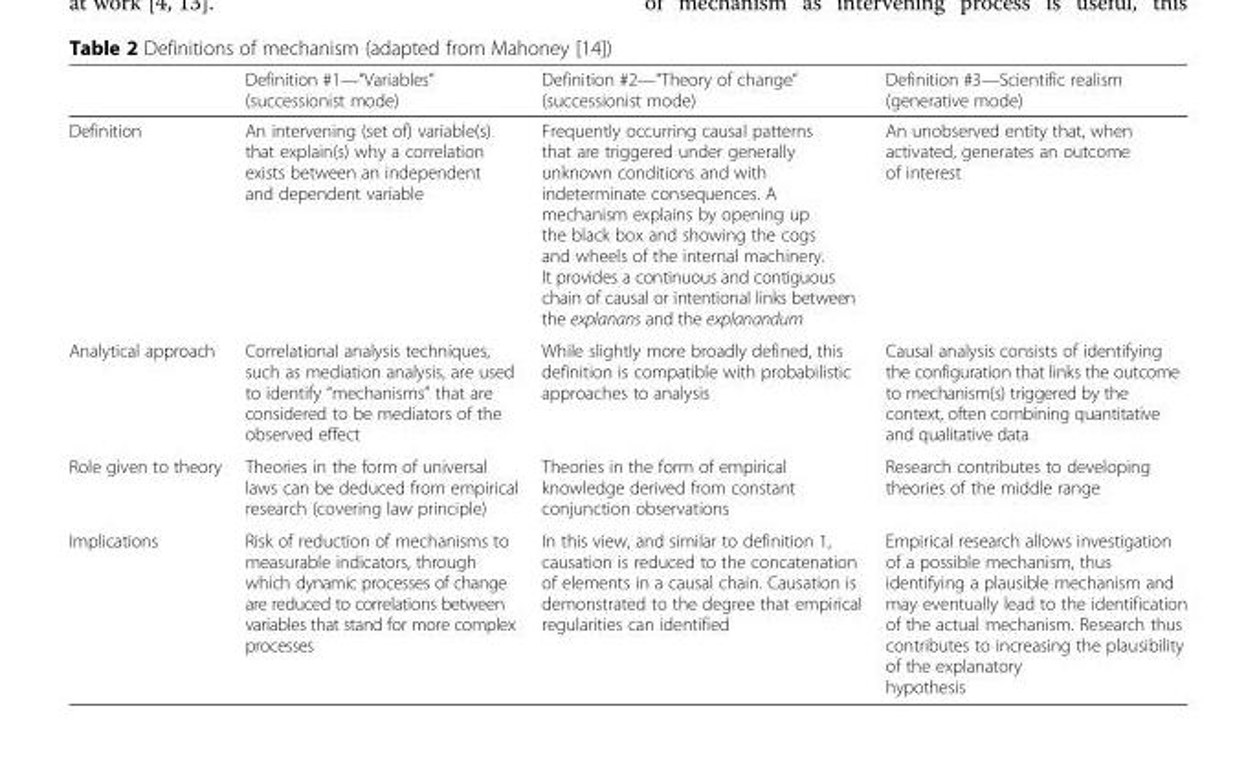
<table><thead><tr><td></td><td>Definition #1—“Variables” (successionist mode)</td><td>Definition #2—“Theory of change” (successionist mode)</td><td>Definition #3—Scientific realism (generative mode)</td></tr></thead><tbody><tr><td>Definition</td><td>An intervening (set of) variable(s) that explain(s) why a correlation exists between an independent and dependent variable</td><td>Frequently occurring causal patterns that are triggered under generally unknown conditions and with indeterminate consequences. A mechanism explains by opening up the black box and showing the cogs and wheels of the internal machinery. It provides a continuous and contiguous chain of causal or intentional links between the explanans and the explanandum</td><td>An unobserved entity that, when activated, generates an outcome of interest</td></tr><tr><td>Analytical approach</td><td>Correlational analysis techniques, such as mediation analysis, are used to identify “mechanisms” that are considered to be mediators of the observed effect</td><td>While slightly more broadly defined, this definition is compatible with probabilistic approaches to analysis</td><td>Causal analysis consists of identifying the configuration that links the outcome to mechanism(s) triggered by the context, often combining quantitative and qualitative data</td></tr><tr><td>Role given to theory</td><td>Theories in the form of universal laws can be deduced from empirical research (covering law principle)</td><td>Theories in the form of empirical knowledge derived from constant conjunction observations</td><td>Research contributes to developing theories of the middle range</td></tr><tr><td>Implications</td><td>Risk of reduction of mechanisms to measurable indicators, through which dynamic processes of change are reduced to correlations between variables that stand for more complex processes</td><td>In this view, and similar to definition 1, causation is reduced to the concatenation of elements in a causal chain. Causation is demonstrated to the degree that empirical regularities can identified</td><td>Empirical research allows investigation of a possible mechanism, thus identifying a plausible mechanism and may eventually lead to the identification of the actual mechanism. Research thus contributes to increasing the plausibility of the explanatory hypothesis</td></tr></tbody></table>